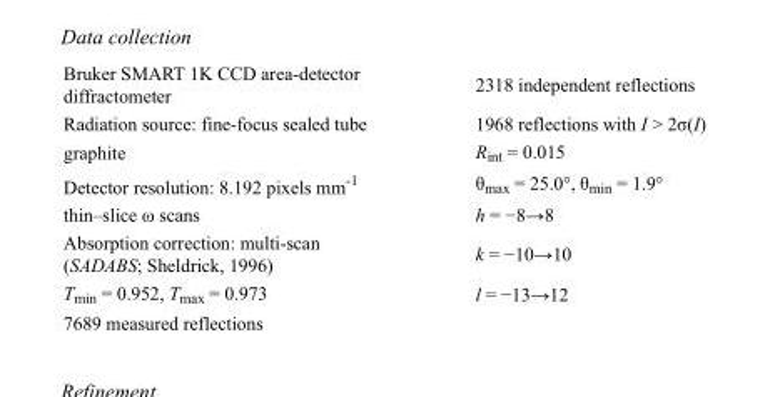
<table><tbody><tr><td>Bruker SMART 1K CCD area-detector diffractometer</td><td>2318 independent reflections</td></tr><tr><td>Radiation source: fine-focus sealed tube</td><td>1968 reflections with I &gt; 2σ(I)</td></tr><tr><td>graphite</td><td>R<sub>int</sub> = 0.015</td></tr><tr><td>Detector resolution: 8.192 pixels mm<sup>-1</sup></td><td>θ<sub>max</sub> = 25.0°, θ<sub>min</sub> = 1.9°</td></tr><tr><td>thin–slice ω scans</td><td>h = −8→8</td></tr><tr><td>Absorption correction: multi-scan (SADABS; Sheldrick, 1996)</td><td>k = −10→10</td></tr><tr><td>T<sub>min</sub> = 0.952, T<sub>max</sub> = 0.973</td><td>l = −13→12</td></tr><tr><td>7689 measured reflections</td><td></td></tr></tbody></table>